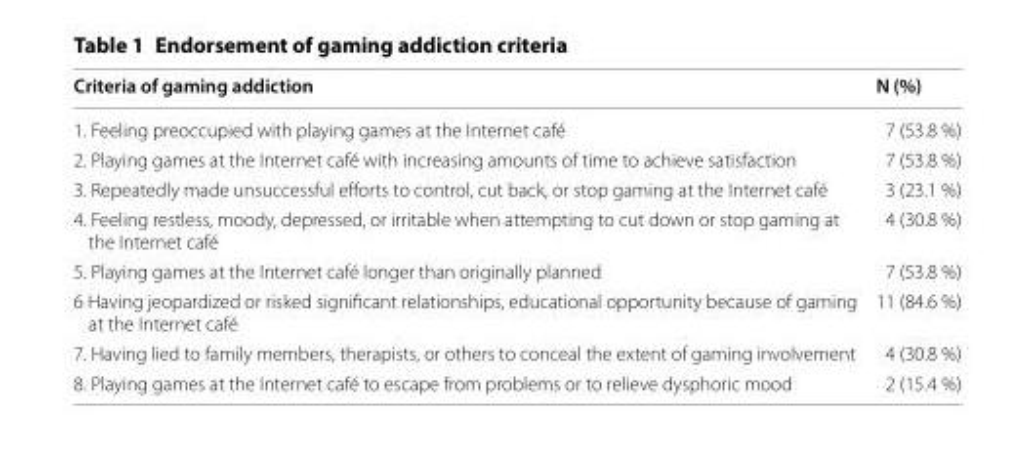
<table><thead><tr><td>Criteria of gaming addiction</td><td>N (%)</td></tr></thead><tbody><tr><td>1. Feeling preoccupied with playing games at the Internet café</td><td>7 (53.8 %)</td></tr><tr><td>2. Playing games at the Internet café with increasing amounts of time to achieve satisfaction</td><td>7 (53.8 %)</td></tr><tr><td>3. Repeatedly made unsuccessful efforts to control, cut back, or stop gaming at the Internet café</td><td>3 (23.1 %)</td></tr><tr><td>4. Feeling restless, moody, depressed, or irritable when attempting to cut down or stop gaming at the Internet café</td><td>4 (30.8 %)</td></tr><tr><td>5. Playing games at the Internet café longer than originally planned</td><td>7 (53.8 %)</td></tr><tr><td>6 Having jeopardized or risked significant relationships, educational opportunity because of gaming at the Internet café</td><td>11 (84.6 %)</td></tr><tr><td>7. Having lied to family members, therapists, or others to conceal the extent of gaming involvement</td><td>4 (30.8 %)</td></tr><tr><td>8. Playing games at the Internet café to escape from problems or to relieve dysphoric mood</td><td>2 (15.4 %)</td></tr></tbody></table>